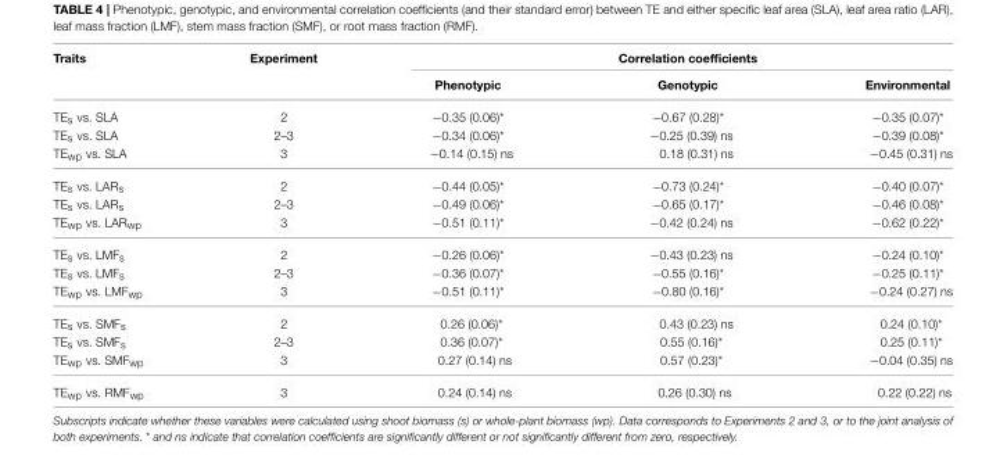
<table><thead><tr><td rowspan="2">Traits</td><td rowspan="2">Experiment</td><td colspan="3">Correlation coefficients</td></tr><tr><td>Phenotypic</td><td>Genotypic</td><td>Environmental</td></tr></thead><tbody><tr><td>TE<sub>s</sub> vs. SLA</td><td>2</td><td>−0.35 (0.06)*</td><td>−0.67 (0.28)*</td><td>−0.35 (0.07)*</td></tr><tr><td>TE<sub>s</sub> vs. SLA</td><td>2–3</td><td>−0.34 (0.06)*</td><td>−0.25 (0.39) ns</td><td>−0.39 (0.08)*</td></tr><tr><td>TE<sub>wp</sub> vs. SLA</td><td>3</td><td>−0.14 (0.15) ns</td><td>0.18 (0.31) ns</td><td>−0.45 (0.31) ns</td></tr><tr><td>TE<sub>s</sub> vs. LAR<sub>s</sub></td><td>2</td><td>−0.44 (0.05)*</td><td>−0.73 (0.24)*</td><td>−0.40 (0.07)*</td></tr><tr><td>TE<sub>s</sub> vs. LAR<sub>s</sub></td><td>2–3</td><td>−0.49 (0.06)*</td><td>−0.65 (0.17)*</td><td>−0.46 (0.08)*</td></tr><tr><td>TE<sub>wp</sub> vs. LAR<sub>wp</sub></td><td>3</td><td>−0.51 (0.11)*</td><td>−0.42 (0.24) ns</td><td>−0.62 (0.22)*</td></tr><tr><td>TE<sub>s</sub> vs. LMF<sub>s</sub></td><td>2</td><td>−0.26 (0.06)*</td><td>−0.43 (0.23) ns</td><td>−0.24 (0.10)*</td></tr><tr><td>TE<sub>s</sub> vs. LMF<sub>s</sub></td><td>2–3</td><td>−0.36 (0.07)*</td><td>−0.55 (0.16)*</td><td>−0.25 (0.11)*</td></tr><tr><td>TE<sub>wp</sub> vs. LMF<sub>wp</sub></td><td>3</td><td>−0.51 (0.11)*</td><td>−0.80 (0.16)*</td><td>−0.24 (0.27) ns</td></tr><tr><td>TE<sub>s</sub> vs. SMF<sub>s</sub></td><td>2</td><td>0.26 (0.06)*</td><td>0.43 (0.23) ns</td><td>0.24 (0.10)*</td></tr><tr><td>TE<sub>s</sub> vs. SMF<sub>s</sub></td><td>2–3</td><td>0.36 (0.07)*</td><td>0.55 (0.16)*</td><td>0.25 (0.11)*</td></tr><tr><td>TE<sub>wp</sub> vs. SMF<sub>wp</sub></td><td>3</td><td>0.27 (0.14) ns</td><td>0.57 (0.23)*</td><td>−0.04 (0.35) ns</td></tr><tr><td>TE<sub>wp</sub> vs. RMF<sub>wp</sub></td><td>3</td><td>0.24 (0.14) ns</td><td>0.26 (0.30) ns</td><td>0.22 (0.22) ns</td></tr></tbody></table>